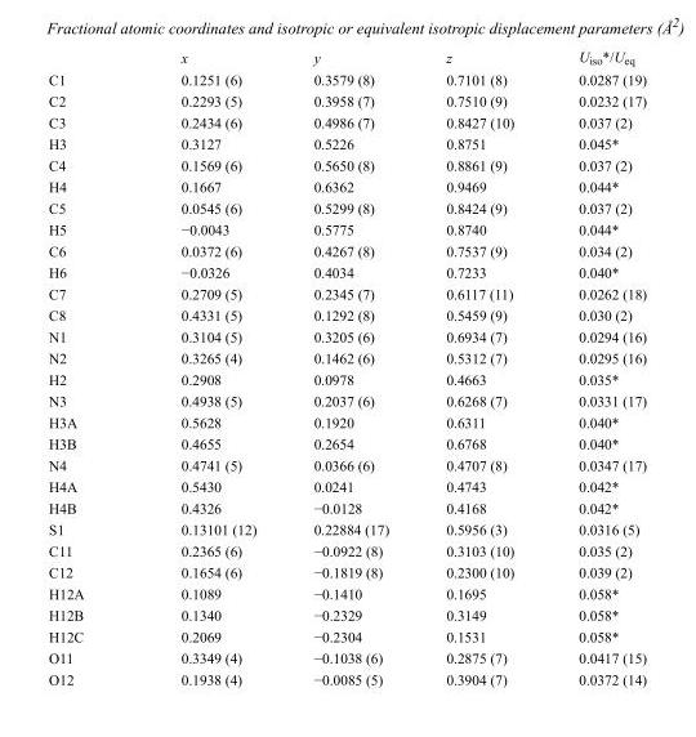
<table><thead><tr><td></td><td>x</td><td>y</td><td>z</td><td>U<sub>iso</sub>*/U<sub>eq</sub></td></tr></thead><tbody><tr><td>C1</td><td>0.1251 (6)</td><td>0.3579 (8)</td><td>0.7101 (8)</td><td>0.0287 (19)</td></tr><tr><td>C2</td><td>0.2293 (5)</td><td>0.3958 (7)</td><td>0.7510 (9)</td><td>0.0232 (17)</td></tr><tr><td>C3</td><td>0.2434 (6)</td><td>0.4986 (7)</td><td>0.8427 (10)</td><td>0.037 (2)</td></tr><tr><td>H3</td><td>0.3127</td><td>0.5226</td><td>0.8751</td><td>0.045*</td></tr><tr><td>C4</td><td>0.1569 (6)</td><td>0.5650 (8)</td><td>0.8861 (9)</td><td>0.037 (2)</td></tr><tr><td>H4</td><td>0.1667</td><td>0.6362</td><td>0.9469</td><td>0.044*</td></tr><tr><td>C5</td><td>0.0545 (6)</td><td>0.5299 (8)</td><td>0.8424 (9)</td><td>0.037 (2)</td></tr><tr><td>H5</td><td>−0.0043</td><td>0.5775</td><td>0.8740</td><td>0.044*</td></tr><tr><td>C6</td><td>0.0372 (6)</td><td>0.4267 (8)</td><td>0.7537 (9)</td><td>0.034 (2)</td></tr><tr><td>H6</td><td>−0.0326</td><td>0.4034</td><td>0.7233</td><td>0.040*</td></tr><tr><td>C7</td><td>0.2709 (5)</td><td>0.2345 (7)</td><td>0.6117 (11)</td><td>0.0262 (18)</td></tr><tr><td>C8</td><td>0.4331 (5)</td><td>0.1292 (8)</td><td>0.5459 (9)</td><td>0.030 (2)</td></tr><tr><td>N1</td><td>0.3104 (5)</td><td>0.3205 (6)</td><td>0.6934 (7)</td><td>0.0294 (16)</td></tr><tr><td>N2</td><td>0.3265 (4)</td><td>0.1462 (6)</td><td>0.5312 (7)</td><td>0.0295 (16)</td></tr><tr><td>H2</td><td>0.2908</td><td>0.0978</td><td>0.4663</td><td>0.035*</td></tr><tr><td>N3</td><td>0.4938 (5)</td><td>0.2037 (6)</td><td>0.6268 (7)</td><td>0.0331 (17)</td></tr><tr><td>H3A</td><td>0.5628</td><td>0.1920</td><td>0.6311</td><td>0.040*</td></tr><tr><td>H3B</td><td>0.4655</td><td>0.2654</td><td>0.6768</td><td>0.040*</td></tr><tr><td>N4</td><td>0.4741 (5)</td><td>0.0366 (6)</td><td>0.4707 (8)</td><td>0.0347 (17)</td></tr><tr><td>H4A</td><td>0.5430</td><td>0.0241</td><td>0.4743</td><td>0.042*</td></tr><tr><td>H4B</td><td>0.4326</td><td>−0.0128</td><td>0.4168</td><td>0.042*</td></tr><tr><td>S1</td><td>0.13101 (12)</td><td>0.22884 (17)</td><td>0.5956 (3)</td><td>0.0316 (5)</td></tr><tr><td>C11</td><td>0.2365 (6)</td><td>−0.0922 (8)</td><td>0.3103 (10)</td><td>0.035 (2)</td></tr><tr><td>C12</td><td>0.1654 (6)</td><td>−0.1819 (8)</td><td>0.2300 (10)</td><td>0.039 (2)</td></tr><tr><td>H12A</td><td>0.1089</td><td>−0.1410</td><td>0.1695</td><td>0.058*</td></tr><tr><td>H12B</td><td>0.1340</td><td>−0.2329</td><td>0.3149</td><td>0.058*</td></tr><tr><td>H12C</td><td>0.2069</td><td>−0.2304</td><td>0.1531</td><td>0.058*</td></tr><tr><td>O11</td><td>0.3349 (4)</td><td>−0.1038 (6)</td><td>0.2875 (7)</td><td>0.0417 (15)</td></tr><tr><td>O12</td><td>0.1938 (4)</td><td>−0.0085 (5)</td><td>0.3904 (7)</td><td>0.0372 (14)</td></tr></tbody></table>